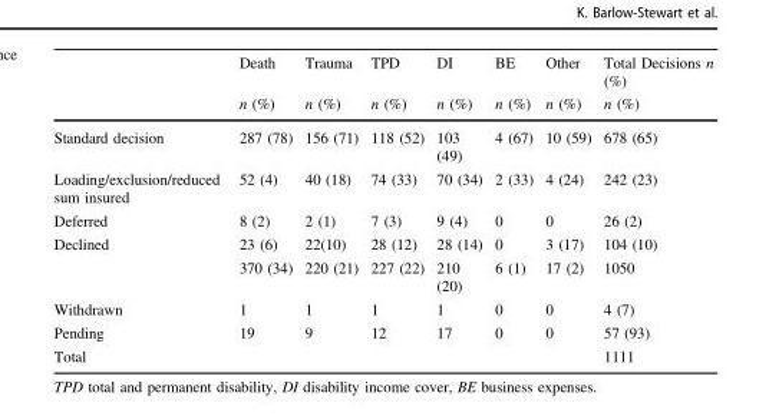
<table><thead><tr><td rowspan="2"></td><td rowspan="2">Death n (%)</td><td rowspan="2">Trauma n (%)</td><td rowspan="2">TPD n (%)</td><td rowspan="2">DI n (%)</td><td rowspan="2">BE n (%)</td><td rowspan="2">Other n (%)</td><td rowspan="2">Total Decisions n (%) n (%)</td></tr><tr></tr></thead><tbody><tr><td>Standard decision</td><td>287 (78)</td><td>156 (71)</td><td>118 (52)</td><td>103 (49)</td><td>4 (67)</td><td>10 (59)</td><td>678 (65)</td></tr><tr><td>Loading/exclusion/reduced sum insured</td><td>52 (4)</td><td>40 (18)</td><td>74 (33)</td><td>70 (34)</td><td>2 (33)</td><td>4 (24)</td><td>242 (23)</td></tr><tr><td>Deferred</td><td>8 (2)</td><td>2 (1)</td><td>7 (3)</td><td>9 (4)</td><td>0</td><td>0</td><td>26 (2)</td></tr><tr><td rowspan="2">Declined</td><td>23 (6)</td><td>22(10)</td><td>28 (12)</td><td>28 (14)</td><td>0</td><td>3 (17)</td><td>104 (10)</td></tr><tr><td>370 (34)</td><td>220 (21)</td><td>227 (22)</td><td>210 (20)</td><td>6 (1)</td><td>17 (2)</td><td>1050</td></tr><tr><td>Withdrawn</td><td>1</td><td>1</td><td>1</td><td>1</td><td>0</td><td>0</td><td>4 (7)</td></tr><tr><td>Pending</td><td>19</td><td>9</td><td>12</td><td>17</td><td>0</td><td>0</td><td>57 (93)</td></tr><tr><td>Total</td><td></td><td></td><td></td><td></td><td></td><td></td><td>1111</td></tr></tbody></table>